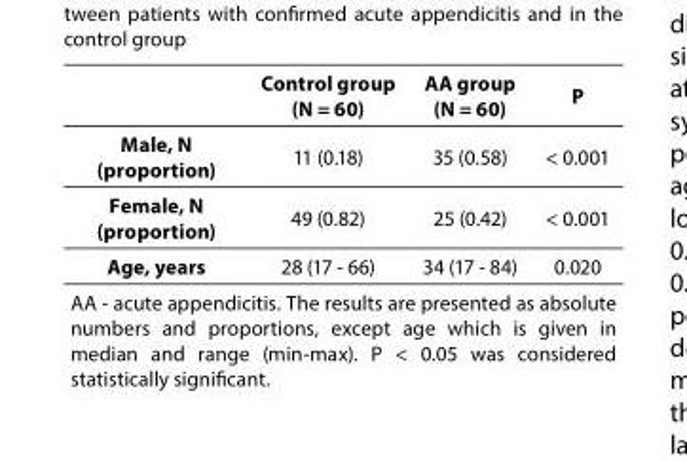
<table><thead><tr><td></td><td>Control group (N = 60)</td><td>AA group (N = 60)</td><td>P</td></tr></thead><tbody><tr><td>Male, N (proportion)</td><td>11 (0.18)</td><td>35 (0.58)</td><td>&lt; 0.001</td></tr><tr><td>Female, N (proportion)</td><td>49 (0.82)</td><td>25 (0.42)</td><td>&lt; 0.001</td></tr><tr><td>Age, years</td><td>28 (17 - 66)</td><td>34 (17 - 84)</td><td>0.020</td></tr><tr><td colspan="4">AA - acute appendicitis. The results are presented as absolute numbers and proportions, except age which is given in median and range (min-max). P &lt; 0.05 was considered statistically significant.</td></tr></tbody></table>